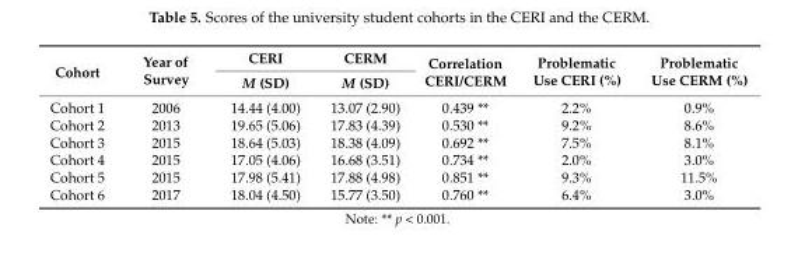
<table><thead><tr><td rowspan="2">Cohort</td><td rowspan="2">Year of Survey</td><td rowspan="2">CERI M (SD)</td><td rowspan="2">CERM M (SD)</td><td rowspan="2">Correlation CERI/CERM</td><td rowspan="2">Problematic Use CERI (%)</td><td rowspan="2">Problematic Use CERM (%)</td></tr><tr></tr></thead><tbody><tr><td>Cohort 1</td><td>2006</td><td>14.44 (4.00)</td><td>13.07 (2.90)</td><td>0.439 **</td><td>2.2%</td><td>0.9%</td></tr><tr><td>Cohort 2</td><td>2013</td><td>19.65 (5.06)</td><td>17.83 (4.39)</td><td>0.530 **</td><td>9.2%</td><td>8.6%</td></tr><tr><td>Cohort 3</td><td>2015</td><td>18.64 (5.03)</td><td>18.38 (4.09)</td><td>0.692 **</td><td>7.5%</td><td>8.1%</td></tr><tr><td>Cohort 4</td><td>2015</td><td>17.05 (4.06)</td><td>16.68 (3.51)</td><td>0.734 **</td><td>2.0%</td><td>3.0%</td></tr><tr><td>Cohort 5</td><td>2015</td><td>17.98 (5.41)</td><td>17.88 (4.98)</td><td>0.851 **</td><td>9.3%</td><td>11.5%</td></tr><tr><td>Cohort 6</td><td>2017</td><td>18.04 (4.50)</td><td>15.77 (3.50)</td><td>0.760 **</td><td>6.4%</td><td>3.0%</td></tr></tbody></table>